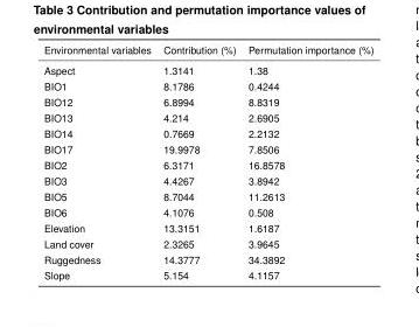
<table><thead><tr><td>Environmental variables</td><td>Contribution (%)</td><td>Permutation importance (%)</td></tr></thead><tbody><tr><td>Aspect</td><td>1.3141</td><td>1.38</td></tr><tr><td>BIO1</td><td>8.1786</td><td>0.4244</td></tr><tr><td>BIO12</td><td>6.8994</td><td>8.8319</td></tr><tr><td>BIO13</td><td>4.214</td><td>2.6905</td></tr><tr><td>BIO14</td><td>0.7669</td><td>2.2132</td></tr><tr><td>BIO17</td><td>19.9978</td><td>7.8506</td></tr><tr><td>BIO2</td><td>6.3171</td><td>16.8578</td></tr><tr><td>BIO3</td><td>4.4267</td><td>3.8942</td></tr><tr><td>BIO5</td><td>8.7044</td><td>11.2613</td></tr><tr><td>BIO6</td><td>4.1076</td><td>0.508</td></tr><tr><td>Elevation</td><td>13.3151</td><td>1.6187</td></tr><tr><td>Land cover</td><td>2.3265</td><td>3.9645</td></tr><tr><td>Ruggedness</td><td>14.3777</td><td>34.3892</td></tr><tr><td>Slope</td><td>5.154</td><td>4.1157</td></tr></tbody></table>